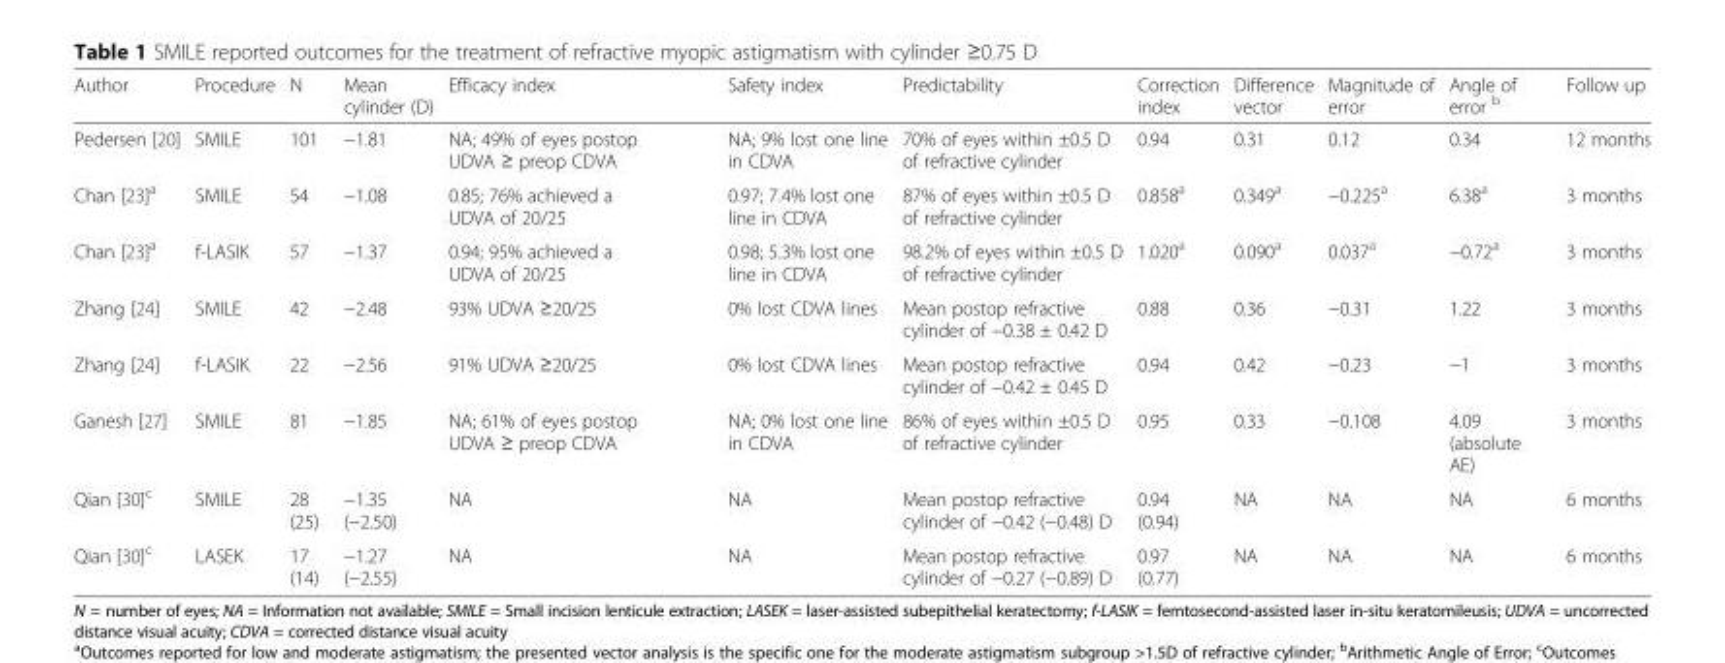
<table><thead><tr><td>Author</td><td>Procedure</td><td>N</td><td>Mean cylinder (D)</td><td>Efficacy index</td><td>Safety index</td><td>Predictability</td><td>Correction index</td><td>Difference vector</td><td>Magnitude of error</td><td>Angle of error <sup>b</sup></td><td>Follow up</td></tr></thead><tbody><tr><td>Pedersen [20]</td><td>SMILE</td><td>101</td><td>−1.81</td><td>NA; 49% of eyes postop UDVA ≥ preop CDVA</td><td>NA; 9% lost one line in CDVA</td><td>70% of eyes within ±0.5 D of refractive cylinder</td><td>0.94</td><td>0.31</td><td>0.12</td><td>0.34</td><td>12 months</td></tr><tr><td>Chan [23]<sup>a</sup></td><td>SMILE</td><td>54</td><td>−1.08</td><td>0.85; 76% achieved a UDVA of 20/25</td><td>0.97; 7.4% lost one line in CDVA</td><td>87% of eyes within ±0.5 D of refractive cylinder</td><td>0.858<sup>a</sup></td><td>0.349<sup>a</sup></td><td>−0.225<sup>a</sup></td><td>6.38<sup>a</sup></td><td>3 months</td></tr><tr><td>Chan [23]<sup>a</sup></td><td>f-LASIK</td><td>57</td><td>−1.37</td><td>0.94; 95% achieved a UDVA of 20/25</td><td>0.98; 5.3% lost one line in CDVA</td><td>98.2% of eyes within ±0.5 D of refractive cylinder</td><td>1.020<sup>a</sup></td><td>0.090<sup>a</sup></td><td>0.037<sup>a</sup></td><td>−0.72<sup>a</sup></td><td>3 months</td></tr><tr><td>Zhang [24]</td><td>SMILE</td><td>42</td><td>−2.48</td><td>93% UDVA ≥20/25</td><td>0% lost CDVA lines</td><td>Mean postop refractive cylinder of −0.38 ± 0.42 D</td><td>0.88</td><td>0.36</td><td>−0.31</td><td>1.22</td><td>3 months</td></tr><tr><td>Zhang [24]</td><td>f-LASIK</td><td>22</td><td>−2.56</td><td>91% UDVA ≥20/25</td><td>0% lost CDVA lines</td><td>Mean postop refractive cylinder of −0.42 ± 0.45 D</td><td>0.94</td><td>0.42</td><td>−0.23</td><td>−1</td><td>3 months</td></tr><tr><td>Ganesh [27]</td><td>SMILE</td><td>81</td><td>−1.85</td><td>NA; 61% of eyes postop UDVA ≥ preop CDVA</td><td>NA; 0% lost one line in CDVA</td><td>86% of eyes within ±0.5 D of refractive cylinder</td><td>0.95</td><td>0.33</td><td>−0.108</td><td>4.09 (absolute AE)</td><td>3 months</td></tr><tr><td>Qian [30]<sup>c</sup></td><td>SMILE</td><td>28 (25)</td><td>−1.35 (−2.50)</td><td>NA</td><td>NA</td><td>Mean postop refractive cylinder of −0.42 (−0.48) D</td><td>0.94 (0.94)</td><td>NA</td><td>NA</td><td>NA</td><td>6 months</td></tr><tr><td>Qian [30]<sup>c</sup></td><td>LASEK</td><td>17 (14)</td><td>−1.27 (−2.55)</td><td>NA</td><td>NA</td><td>Mean postop refractive cylinder of −0.27 (−0.89) D</td><td>0.97 (0.77)</td><td>NA</td><td>NA</td><td>NA</td><td>6 months</td></tr></tbody></table>